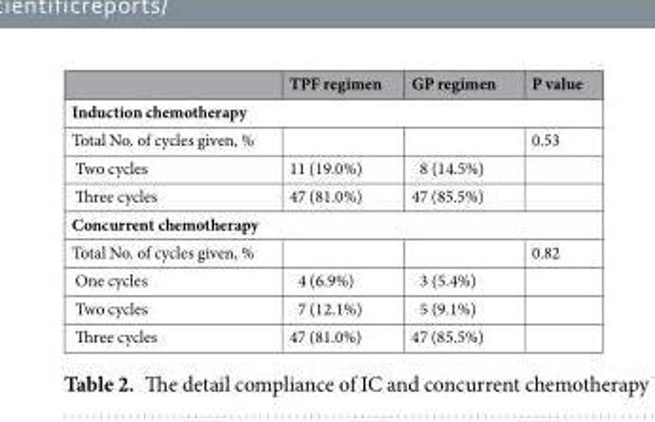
<table><thead><tr><td></td><td>TPF regimen</td><td>GP regimen</td><td>P value</td></tr></thead><tbody><tr><td colspan="4">Induction chemotherapy</td></tr><tr><td>Total No. of cycles given, %</td><td></td><td></td><td>0.53</td></tr><tr><td>Two cycles</td><td>11 (19.0%)</td><td>8 (14.5%)</td><td></td></tr><tr><td>Three cycles</td><td>47 (81.0%)</td><td>47 (85.5%)</td><td></td></tr><tr><td colspan="4">Concurrent chemotherapy</td></tr><tr><td>Total No. of cycles given, %</td><td></td><td></td><td>0.82</td></tr><tr><td>One cycles</td><td>4 (6.9%)</td><td>3 (5.4%)</td><td></td></tr><tr><td>Two cycles</td><td>7 (12.1%)</td><td>5 (9.1%)</td><td></td></tr><tr><td>Three cycles</td><td>47 (81.0%)</td><td>47 (85.5%)</td><td></td></tr></tbody></table>